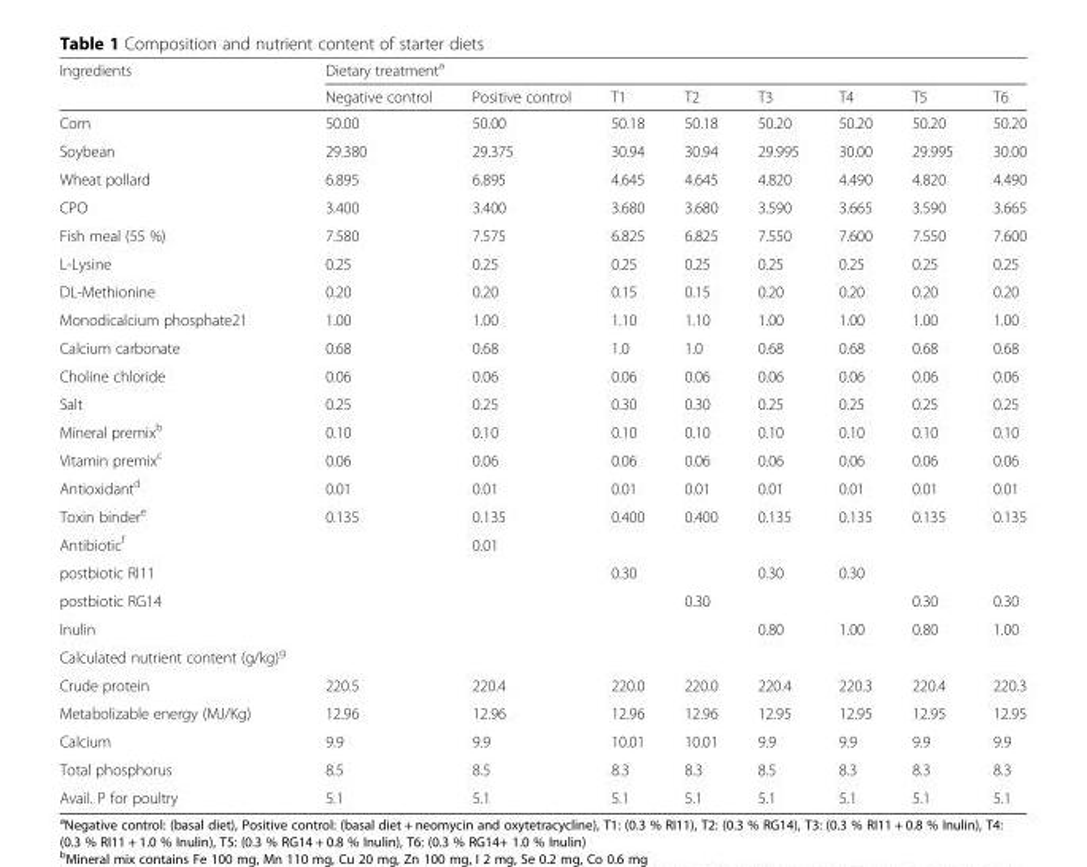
<table><thead><tr><td rowspan="2">Ingredients</td><td colspan="8">Dietary treatment<sup>a</sup></td></tr><tr><td>Negative control</td><td>Positive control</td><td>T1</td><td>T2</td><td>T3</td><td>T4</td><td>T5</td><td>T6</td></tr></thead><tbody><tr><td>Corn</td><td>50.00</td><td>50.00</td><td>50.18</td><td>50.18</td><td>50.20</td><td>50.20</td><td>50.20</td><td>50.20</td></tr><tr><td>Soybean</td><td>29.380</td><td>29.375</td><td>30.94</td><td>30.94</td><td>29.995</td><td>30.00</td><td>29.995</td><td>30.00</td></tr><tr><td>Wheat pollard</td><td>6.895</td><td>6.895</td><td>4.645</td><td>4.645</td><td>4.820</td><td>4.490</td><td>4.820</td><td>4.490</td></tr><tr><td>CPO</td><td>3.400</td><td>3.400</td><td>3.680</td><td>3.680</td><td>3.590</td><td>3.665</td><td>3.590</td><td>3.665</td></tr><tr><td>Fish meal (55 %)</td><td>7.580</td><td>7.575</td><td>6.825</td><td>6.825</td><td>7.550</td><td>7.600</td><td>7.550</td><td>7.600</td></tr><tr><td>L-Lysine</td><td>0.25</td><td>0.25</td><td>0.25</td><td>0.25</td><td>0.25</td><td>0.25</td><td>0.25</td><td>0.25</td></tr><tr><td>DL-Methionine</td><td>0.20</td><td>0.20</td><td>0.15</td><td>0.15</td><td>0.20</td><td>0.20</td><td>0.20</td><td>0.20</td></tr><tr><td>Monodicalcium phosphate21</td><td>1.00</td><td>1.00</td><td>1.10</td><td>1.10</td><td>1.00</td><td>1.00</td><td>1.00</td><td>1.00</td></tr><tr><td>Calcium carbonate</td><td>0.68</td><td>0.68</td><td>1.0</td><td>1.0</td><td>0.68</td><td>0.68</td><td>0.68</td><td>0.68</td></tr><tr><td>Choline chloride</td><td>0.06</td><td>0.06</td><td>0.06</td><td>0.06</td><td>0.06</td><td>0.06</td><td>0.06</td><td>0.06</td></tr><tr><td>Salt</td><td>0.25</td><td>0.25</td><td>0.30</td><td>0.30</td><td>0.25</td><td>0.25</td><td>0.25</td><td>0.25</td></tr><tr><td>Mineral premix<sup>b</sup></td><td>0.10</td><td>0.10</td><td>0.10</td><td>0.10</td><td>0.10</td><td>0.10</td><td>0.10</td><td>0.10</td></tr><tr><td>Vitamin premix<sup>c</sup></td><td>0.06</td><td>0.06</td><td>0.06</td><td>0.06</td><td>0.06</td><td>0.06</td><td>0.06</td><td>0.06</td></tr><tr><td>Antioxidant<sup>d</sup></td><td>0.01</td><td>0.01</td><td>0.01</td><td>0.01</td><td>0.01</td><td>0.01</td><td>0.01</td><td>0.01</td></tr><tr><td>Toxin binder<sup>e</sup></td><td>0.135</td><td>0.135</td><td>0.400</td><td>0.400</td><td>0.135</td><td>0.135</td><td>0.135</td><td>0.135</td></tr><tr><td>Antibiotic<sup>f</sup></td><td></td><td>0.01</td><td></td><td></td><td></td><td></td><td></td><td></td></tr><tr><td>postbiotic RI11</td><td></td><td></td><td>0.30</td><td></td><td>0.30</td><td>0.30</td><td></td><td></td></tr><tr><td>postbiotic RG14</td><td></td><td></td><td></td><td>0.30</td><td></td><td></td><td>0.30</td><td>0.30</td></tr><tr><td>Inulin</td><td></td><td></td><td></td><td></td><td>0.80</td><td>1.00</td><td>0.80</td><td>1.00</td></tr><tr><td colspan="9">Calculated nutrient content (g/kg)<sup>g</sup></td></tr><tr><td>Crude protein</td><td>220.5</td><td>220.4</td><td>220.0</td><td>220.0</td><td>220.4</td><td>220.3</td><td>220.4</td><td>220.3</td></tr><tr><td>Metabolizable energy (MJ/Kg)</td><td>12.96</td><td>12.96</td><td>12.96</td><td>12.96</td><td>12.95</td><td>12.95</td><td>12.95</td><td>12.95</td></tr><tr><td>Calcium</td><td>9.9</td><td>9.9</td><td>10.01</td><td>10.01</td><td>9.9</td><td>9.9</td><td>9.9</td><td>9.9</td></tr><tr><td>Total phosphorus</td><td>8.5</td><td>8.5</td><td>8.3</td><td>8.3</td><td>8.5</td><td>8.3</td><td>8.3</td><td>8.3</td></tr><tr><td>Avail. P for poultry</td><td>5.1</td><td>5.1</td><td>5.1</td><td>5.1</td><td>5.1</td><td>5.1</td><td>5.1</td><td>5.1</td></tr></tbody></table>